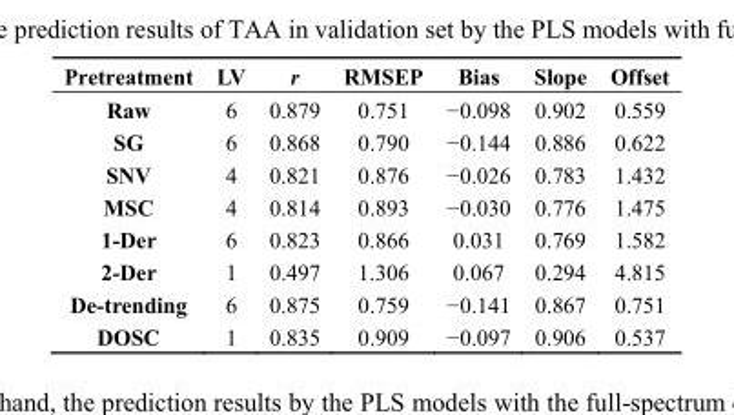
<table><thead><tr><td>Pretreatment</td><td>LV</td><td>r</td><td>RMSEP</td><td>Bias</td><td>Slope</td><td>Offset</td></tr></thead><tbody><tr><td>Raw</td><td>6</td><td>0.879</td><td>0.751</td><td>−0.098</td><td>0.902</td><td>0.559</td></tr><tr><td>SG</td><td>6</td><td>0.868</td><td>0.790</td><td>−0.144</td><td>0.886</td><td>0.622</td></tr><tr><td>SNV</td><td>4</td><td>0.821</td><td>0.876</td><td>−0.026</td><td>0.783</td><td>1.432</td></tr><tr><td>MSC</td><td>4</td><td>0.814</td><td>0.893</td><td>−0.030</td><td>0.776</td><td>1.475</td></tr><tr><td>1-Der</td><td>6</td><td>0.823</td><td>0.866</td><td>0.031</td><td>0.769</td><td>1.582</td></tr><tr><td>2-Der</td><td>1</td><td>0.497</td><td>1.306</td><td>0.067</td><td>0.294</td><td>4.815</td></tr><tr><td>De-trending</td><td>6</td><td>0.875</td><td>0.759</td><td>−0.141</td><td>0.867</td><td>0.751</td></tr><tr><td>DOSC</td><td>1</td><td>0.835</td><td>0.909</td><td>−0.097</td><td>0.906</td><td>0.537</td></tr></tbody></table>